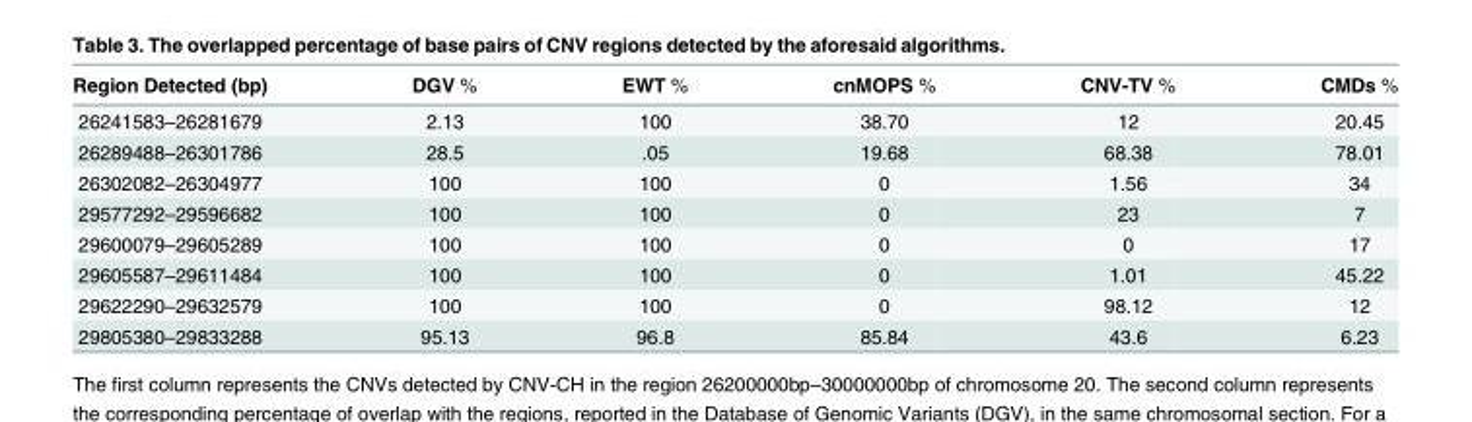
<table><thead><tr><td>Region Detected (bp)</td><td>DGV %</td><td>EWT %</td><td>cnMOPS %</td><td>CNV-TV %</td><td>CMDs %</td></tr></thead><tbody><tr><td>26241583–26281679</td><td>2.13</td><td>100</td><td>38.70</td><td>12</td><td>20.45</td></tr><tr><td>26289488–26301786</td><td>28.5</td><td>.05</td><td>19.68</td><td>68.38</td><td>78.01</td></tr><tr><td>26302082–26304977</td><td>100</td><td>100</td><td>0</td><td>1.56</td><td>34</td></tr><tr><td>29577292–29596682</td><td>100</td><td>100</td><td>0</td><td>23</td><td>7</td></tr><tr><td>29600079–29605289</td><td>100</td><td>100</td><td>0</td><td>0</td><td>17</td></tr><tr><td>29605587–29611484</td><td>100</td><td>100</td><td>0</td><td>1.01</td><td>45.22</td></tr><tr><td>29622290–29632579</td><td>100</td><td>100</td><td>0</td><td>98.12</td><td>12</td></tr><tr><td>29805380–29833288</td><td>95.13</td><td>96.8</td><td>85.84</td><td>43.6</td><td>6.23</td></tr></tbody></table>